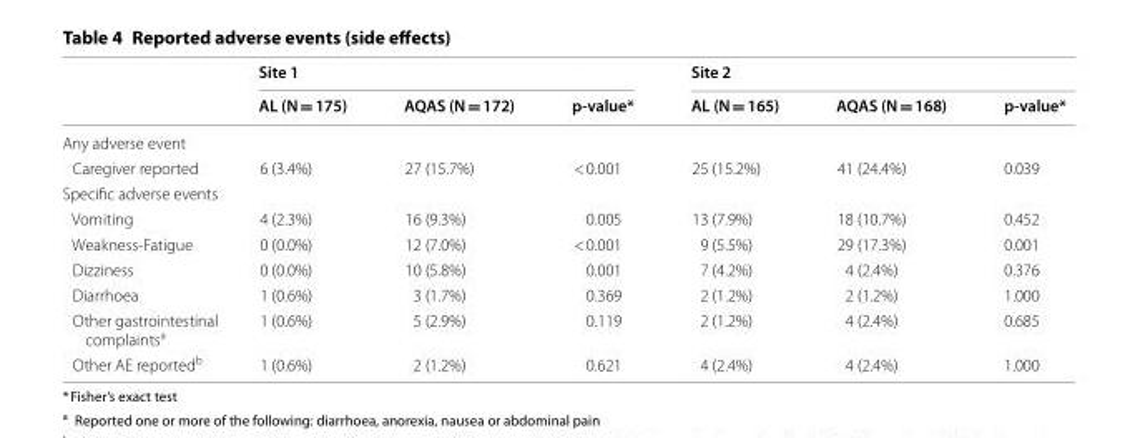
<table><thead><tr><td rowspan="2"></td><td colspan="3">Site 1</td><td colspan="3">Site 2</td></tr><tr><td>AL (N = 175)</td><td>AQAS (N = 172)</td><td>p‑value*</td><td>AL (N = 165)</td><td>AQAS (N = 168)</td><td>p‑value*</td></tr></thead><tbody><tr><td colspan="7">Any adverse event</td></tr><tr><td>Caregiver reported</td><td>6 (3.4%)</td><td>27 (15.7%)</td><td>&lt; 0.001</td><td>25 (15.2%)</td><td>41 (24.4%)</td><td>0.039</td></tr><tr><td colspan="7">Specific adverse events</td></tr><tr><td>Vomiting</td><td>4 (2.3%)</td><td>16 (9.3%)</td><td>0.005</td><td>13 (7.9%)</td><td>18 (10.7%)</td><td>0.452</td></tr><tr><td>Weakness-Fatigue</td><td>0 (0.0%)</td><td>12 (7.0%)</td><td>&lt; 0.001</td><td>9 (5.5%)</td><td>29 (17.3%)</td><td>0.001</td></tr><tr><td>Dizziness</td><td>0 (0.0%)</td><td>10 (5.8%)</td><td>0.001</td><td>7 (4.2%)</td><td>4 (2.4%)</td><td>0.376</td></tr><tr><td>Diarrhoea</td><td>1 (0.6%)</td><td>3 (1.7%)</td><td>0.369</td><td>2 (1.2%)</td><td>2 (1.2%)</td><td>1.000</td></tr><tr><td>Other gastrointestinal complaints<sup>a</sup></td><td>1 (0.6%)</td><td>5 (2.9%)</td><td>0.119</td><td>2 (1.2%)</td><td>4 (2.4%)</td><td>0.685</td></tr><tr><td>Other AE reported<sup>b</sup></td><td>1 (0.6%)</td><td>2 (1.2%)</td><td>0.621</td><td>4 (2.4%)</td><td>4 (2.4%)</td><td>1.000</td></tr></tbody></table>